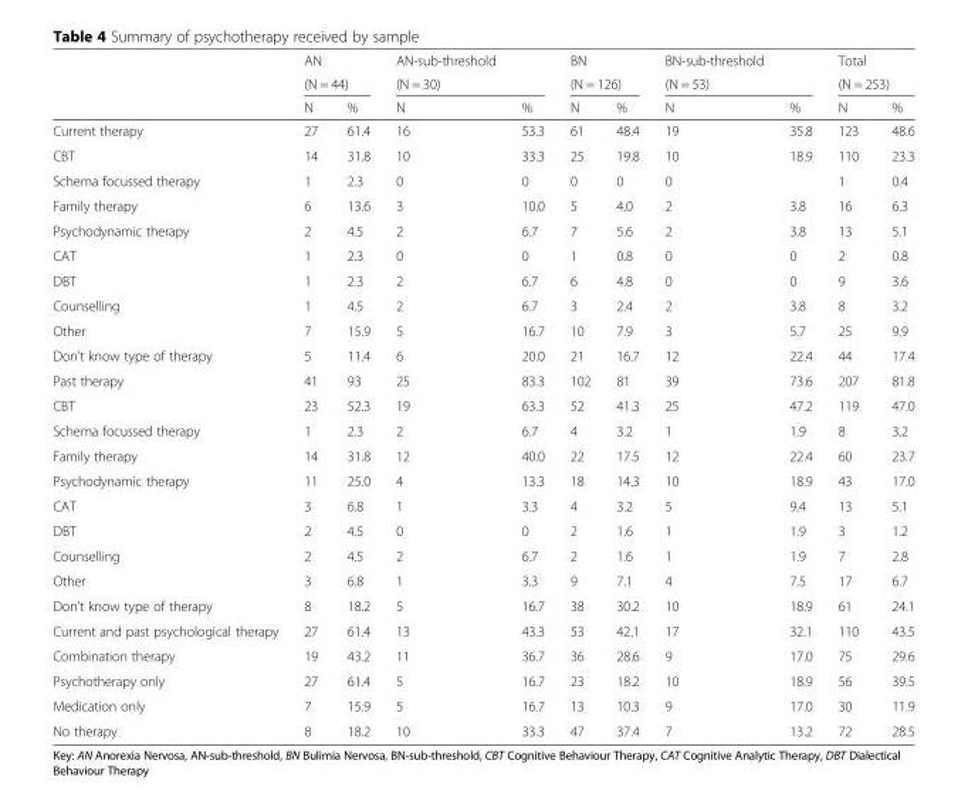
<table><thead><tr><td rowspan="3"></td><td>AN</td><td></td><td>AN-sub-threshold</td><td></td><td>BN</td><td></td><td>BN-sub-threshold</td><td></td><td>Total</td><td></td></tr><tr><td colspan="2">(N = 44)</td><td colspan="2">(N = 30)</td><td colspan="2">(N = 126)</td><td colspan="2">(N = 53)</td><td colspan="2">(N = 253)</td></tr><tr><td>N</td><td>%</td><td>N</td><td>%</td><td>N</td><td>%</td><td>N</td><td>%</td><td>N</td><td>%</td></tr></thead><tbody><tr><td>Current therapy</td><td>27</td><td>61.4</td><td>16</td><td>53.3</td><td>61</td><td>48.4</td><td>19</td><td>35.8</td><td>123</td><td>48.6</td></tr><tr><td>CBT</td><td>14</td><td>31.8</td><td>10</td><td>33.3</td><td>25</td><td>19.8</td><td>10</td><td>18.9</td><td>110</td><td>23.3</td></tr><tr><td>Schema focussed therapy</td><td>1</td><td>2.3</td><td>0</td><td>0</td><td>0</td><td>0</td><td>0</td><td></td><td>1</td><td>0.4</td></tr><tr><td>Family therapy</td><td>6</td><td>13.6</td><td>3</td><td>10.0</td><td>5</td><td>4.0</td><td>2</td><td>3.8</td><td>16</td><td>6.3</td></tr><tr><td>Psychodynamic therapy</td><td>2</td><td>4.5</td><td>2</td><td>6.7</td><td>7</td><td>5.6</td><td>2</td><td>3.8</td><td>13</td><td>5.1</td></tr><tr><td>CAT</td><td>1</td><td>2.3</td><td>0</td><td>0</td><td>1</td><td>0.8</td><td>0</td><td>0</td><td>2</td><td>0.8</td></tr><tr><td>DBT</td><td>1</td><td>2.3</td><td>2</td><td>6.7</td><td>6</td><td>4.8</td><td>0</td><td>0</td><td>9</td><td>3.6</td></tr><tr><td>Counselling</td><td>1</td><td>4.5</td><td>2</td><td>6.7</td><td>3</td><td>2.4</td><td>2</td><td>3.8</td><td>8</td><td>3.2</td></tr><tr><td>Other</td><td>7</td><td>15.9</td><td>5</td><td>16.7</td><td>10</td><td>7.9</td><td>3</td><td>5.7</td><td>25</td><td>9.9</td></tr><tr><td>Don’t know type of therapy</td><td>5</td><td>11.4</td><td>6</td><td>20.0</td><td>21</td><td>16.7</td><td>12</td><td>22.4</td><td>44</td><td>17.4</td></tr><tr><td>Past therapy</td><td>41</td><td>93</td><td>25</td><td>83.3</td><td>102</td><td>81</td><td>39</td><td>73.6</td><td>207</td><td>81.8</td></tr><tr><td>CBT</td><td>23</td><td>52.3</td><td>19</td><td>63.3</td><td>52</td><td>41.3</td><td>25</td><td>47.2</td><td>119</td><td>47.0</td></tr><tr><td>Schema focussed therapy</td><td>1</td><td>2.3</td><td>2</td><td>6.7</td><td>4</td><td>3.2</td><td>1</td><td>1.9</td><td>8</td><td>3.2</td></tr><tr><td>Family therapy</td><td>14</td><td>31.8</td><td>12</td><td>40.0</td><td>22</td><td>17.5</td><td>12</td><td>22.4</td><td>60</td><td>23.7</td></tr><tr><td>Psychodynamic therapy</td><td>11</td><td>25.0</td><td>4</td><td>13.3</td><td>18</td><td>14.3</td><td>10</td><td>18.9</td><td>43</td><td>17.0</td></tr><tr><td>CAT</td><td>3</td><td>6.8</td><td>1</td><td>3.3</td><td>4</td><td>3.2</td><td>5</td><td>9.4</td><td>13</td><td>5.1</td></tr><tr><td>DBT</td><td>2</td><td>4.5</td><td>0</td><td>0</td><td>2</td><td>1.6</td><td>1</td><td>1.9</td><td>3</td><td>1.2</td></tr><tr><td>Counselling</td><td>2</td><td>4.5</td><td>2</td><td>6.7</td><td>2</td><td>1.6</td><td>1</td><td>1.9</td><td>7</td><td>2.8</td></tr><tr><td>Other</td><td>3</td><td>6.8</td><td>1</td><td>3.3</td><td>9</td><td>7.1</td><td>4</td><td>7.5</td><td>17</td><td>6.7</td></tr><tr><td>Don’t know type of therapy</td><td>8</td><td>18.2</td><td>5</td><td>16.7</td><td>38</td><td>30.2</td><td>10</td><td>18.9</td><td>61</td><td>24.1</td></tr><tr><td>Current and past psychological therapy</td><td>27</td><td>61.4</td><td>13</td><td>43.3</td><td>53</td><td>42.1</td><td>17</td><td>32.1</td><td>110</td><td>43.5</td></tr><tr><td>Combination therapy</td><td>19</td><td>43.2</td><td>11</td><td>36.7</td><td>36</td><td>28.6</td><td>9</td><td>17.0</td><td>75</td><td>29.6</td></tr><tr><td>Psychotherapy only</td><td>27</td><td>61.4</td><td>5</td><td>16.7</td><td>23</td><td>18.2</td><td>10</td><td>18.9</td><td>56</td><td>39.5</td></tr><tr><td>Medication only</td><td>7</td><td>15.9</td><td>5</td><td>16.7</td><td>13</td><td>10.3</td><td>9</td><td>17.0</td><td>30</td><td>11.9</td></tr><tr><td>No therapy</td><td>8</td><td>18.2</td><td>10</td><td>33.3</td><td>47</td><td>37.4</td><td>7</td><td>13.2</td><td>72</td><td>28.5</td></tr></tbody></table>